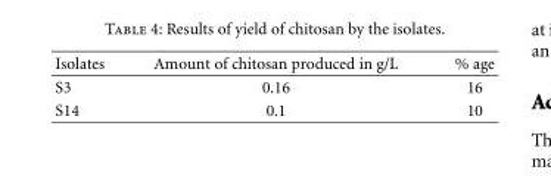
<table><thead><tr><td>Isolates</td><td>Amount of chitosan produced in g/L</td><td>% age</td></tr></thead><tbody><tr><td>S3</td><td>0.16</td><td>16</td></tr><tr><td>S14</td><td>0.1</td><td>10</td></tr></tbody></table>